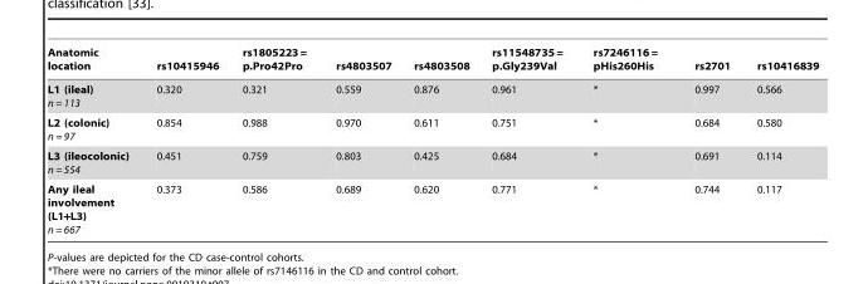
<table><thead><tr><td>Anatomic location</td><td>rs10415946</td><td>rs1805223 = p.Pro42Pro</td><td>rs4803507</td><td>rs4803508</td><td>rs11548735 = p.Gly239Val</td><td>rs7246116 = pHis260His</td><td>rs2701</td><td>rs10416839</td></tr></thead><tbody><tr><td>L1 (ileal) n = 113</td><td>0.320</td><td>0.321</td><td>0.559</td><td>0.876</td><td>0.961</td><td>*</td><td>0.997</td><td>0.566</td></tr><tr><td>L2 (colonic) n = 97</td><td>0.854</td><td>0.988</td><td>0.970</td><td>0.611</td><td>0.751</td><td>*</td><td>0.684</td><td>0.580</td></tr><tr><td>L3 (ileocolonic) n = 554</td><td>0.451</td><td>0.759</td><td>0.803</td><td>0.425</td><td>0.684</td><td>*</td><td>0.691</td><td>0.114</td></tr><tr><td>Any ileal involvement (L1+L3) n = 667</td><td>0.373</td><td>0.586</td><td>0.689</td><td>0.620</td><td>0.771</td><td>*</td><td>0.744</td><td>0.117</td></tr></tbody></table>